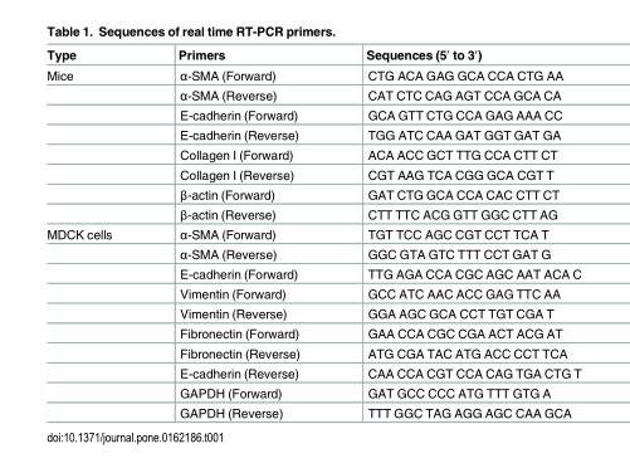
<table><thead><tr><td>Type</td><td>Primers</td><td>Sequences (5′ to 3′)</td></tr></thead><tbody><tr><td rowspan="8">Mice</td><td>α-SMA (Forward)</td><td>CTG ACA GAG GCA CCA CTG AA</td></tr><tr><td>α-SMA (Reverse)</td><td>CAT CTC CAG AGT CCA GCA CA</td></tr><tr><td>E-cadherin (Forward)</td><td>GCA GTT CTG CCA GAG AAA CC</td></tr><tr><td>E-cadherin (Reverse)</td><td>TGG ATC CAA GAT GGT GAT GA</td></tr><tr><td>Collagen I (Forward)</td><td>ACA ACC GCT TTG CCA CTT CT</td></tr><tr><td>Collagen I (Reverse)</td><td>CGT AAG TCA CGG GCA CGT T</td></tr><tr><td>β-actin (Forward)</td><td>GAT CTG GCA CCA CAC CTT CT</td></tr><tr><td>β-actin (Reverse)</td><td>CTT TTC ACG GTT GGC CTT AG</td></tr><tr><td rowspan="10">MDCK cells</td><td>α-SMA (Forward)</td><td>TGT TCC AGC CGT CCT TCA T</td></tr><tr><td>α-SMA (Reverse)</td><td>GGC GTA GTC TTT CCT GAT G</td></tr><tr><td>E-cadherin (Forward)</td><td>TTG AGA CCA CGC AGC AAT ACA C</td></tr><tr><td>Vimentin (Forward)</td><td>GCC ATC AAC ACC GAG TTC AA</td></tr><tr><td>Vimentin (Reverse)</td><td>GGA AGC GCA CCT TGT CGA T</td></tr><tr><td>Fibronectin (Forward)</td><td>GAA CCA CGC CGA ACT ACG AT</td></tr><tr><td>Fibronectin (Reverse)</td><td>ATG CGA TAC ATG ACC CCT TCA</td></tr><tr><td>E-cadherin (Reverse)</td><td>CAA CCA CGT CCA CAG TGA CTG T</td></tr><tr><td>GAPDH (Forward)</td><td>GAT GCC CCC ATG TTT GTG A</td></tr><tr><td>GAPDH (Reverse)</td><td>TTT GGC TAG AGG AGC CAA GCA</td></tr></tbody></table>